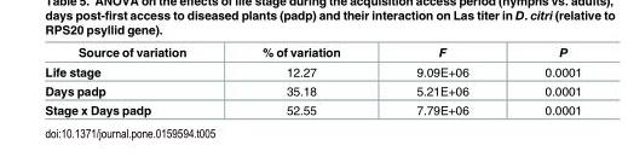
<table><thead><tr><td>Source of variation</td><td>% of variation</td><td>F</td><td>P</td></tr></thead><tbody><tr><td>Life stage</td><td>12.27</td><td>9.09E+06</td><td>0.0001</td></tr><tr><td>Days padp</td><td>35.18</td><td>5.21E+06</td><td>0.0001</td></tr><tr><td>Stage x Days padp</td><td>52.55</td><td>7.79E+06</td><td>0.0001</td></tr></tbody></table>